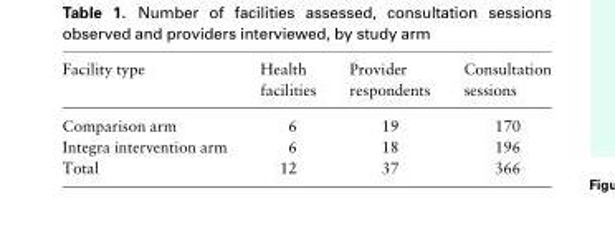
<table><thead><tr><td>Facility type</td><td>Health facilities</td><td>Provider respondents</td><td>Consultation sessions</td></tr></thead><tbody><tr><td>Comparison arm</td><td>6</td><td>19</td><td>170</td></tr><tr><td>Integra intervention arm</td><td>6</td><td>18</td><td>196</td></tr><tr><td>Total</td><td>12</td><td>37</td><td>366</td></tr></tbody></table>